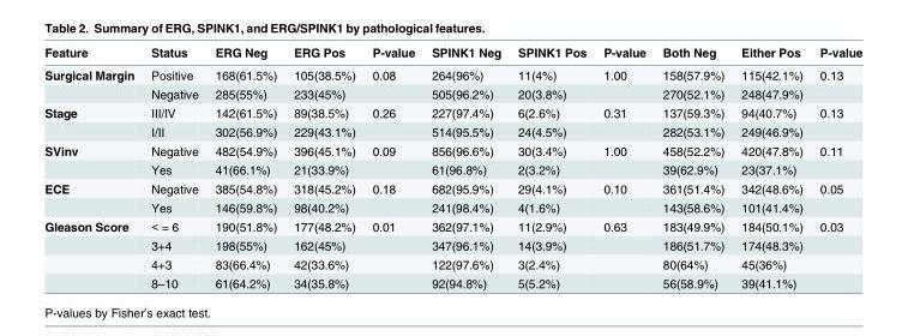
<table><thead><tr><td>Feature</td><td>Status</td><td>ERG Neg</td><td>ERG Pos</td><td>P-value</td><td>SPINK1 Neg</td><td>SPINK1 Pos</td><td>P-value</td><td>Both Neg</td><td>Either Pos</td><td>P-value</td></tr></thead><tbody><tr><td rowspan="2">Surgical Margin</td><td>Positive</td><td>168(61.5%)</td><td>105(38.5%)</td><td>0.08</td><td>264(96%)</td><td>11(4%)</td><td>1.00</td><td>158(57.9%)</td><td>115(42.1%)</td><td>0.13</td></tr><tr><td>Negative</td><td>285(55%)</td><td>233(45%)</td><td></td><td>505(96.2%)</td><td>20(3.8%)</td><td></td><td>270(52.1%)</td><td>248(47.9%)</td><td></td></tr><tr><td rowspan="2">Stage</td><td>III/IV</td><td>142(61.5%)</td><td>89(38.5%)</td><td>0.26</td><td>227(97.4%)</td><td>6(2.6%)</td><td>0.31</td><td>137(59.3%)</td><td>94(40.7%)</td><td>0.13</td></tr><tr><td>I/II</td><td>302(56.9%)</td><td>229(43.1%)</td><td></td><td>514(95.5%)</td><td>24(4.5%)</td><td></td><td>282(53.1%)</td><td>249(46.9%)</td><td></td></tr><tr><td rowspan="2">SVinv</td><td>Negative</td><td>482(54.9%)</td><td>396(45.1%)</td><td>0.09</td><td>856(96.6%)</td><td>30(3.4%)</td><td>1.00</td><td>458(52.2%)</td><td>420(47.8%)</td><td>0.11</td></tr><tr><td>Yes</td><td>41(66.1%)</td><td>21(33.9%)</td><td></td><td>61(96.8%)</td><td>2(3.2%)</td><td></td><td>39(62.9%)</td><td>23(37.1%)</td><td></td></tr><tr><td rowspan="2">ECE</td><td>Negative</td><td>385(54.8%)</td><td>318(45.2%)</td><td>0.18</td><td>682(95.9%)</td><td>29(4.1%)</td><td>0.10</td><td>361(51.4%)</td><td>342(48.6%)</td><td>0.05</td></tr><tr><td>Yes</td><td>146(59.8%)</td><td>98(40.2%)</td><td></td><td>241(98.4%)</td><td>4(1.6%)</td><td></td><td>143(58.6%)</td><td>101(41.4%)</td><td></td></tr><tr><td rowspan="4">Gleason Score</td><td>&lt; = 6</td><td>190(51.8%)</td><td>177(48.2%)</td><td>0.01</td><td>362(97.1%)</td><td>11(2.9%)</td><td>0.63</td><td>183(49.9%)</td><td>184(50.1%)</td><td>0.03</td></tr><tr><td>3+4</td><td>198(55%)</td><td>162(45%)</td><td></td><td>347(96.1%)</td><td>14(3.9%)</td><td></td><td>186(51.7%)</td><td>174(48.3%)</td><td></td></tr><tr><td>4+3</td><td>83(66.4%)</td><td>42(33.6%)</td><td></td><td>122(97.6%)</td><td>3(2.4%)</td><td></td><td>80(64%)</td><td>45(36%)</td><td></td></tr><tr><td>8–10</td><td>61(64.2%)</td><td>34(35.8%)</td><td></td><td>92(94.8%)</td><td>5(5.2%)</td><td></td><td>56(58.9%)</td><td>39(41.1%)</td><td></td></tr></tbody></table>